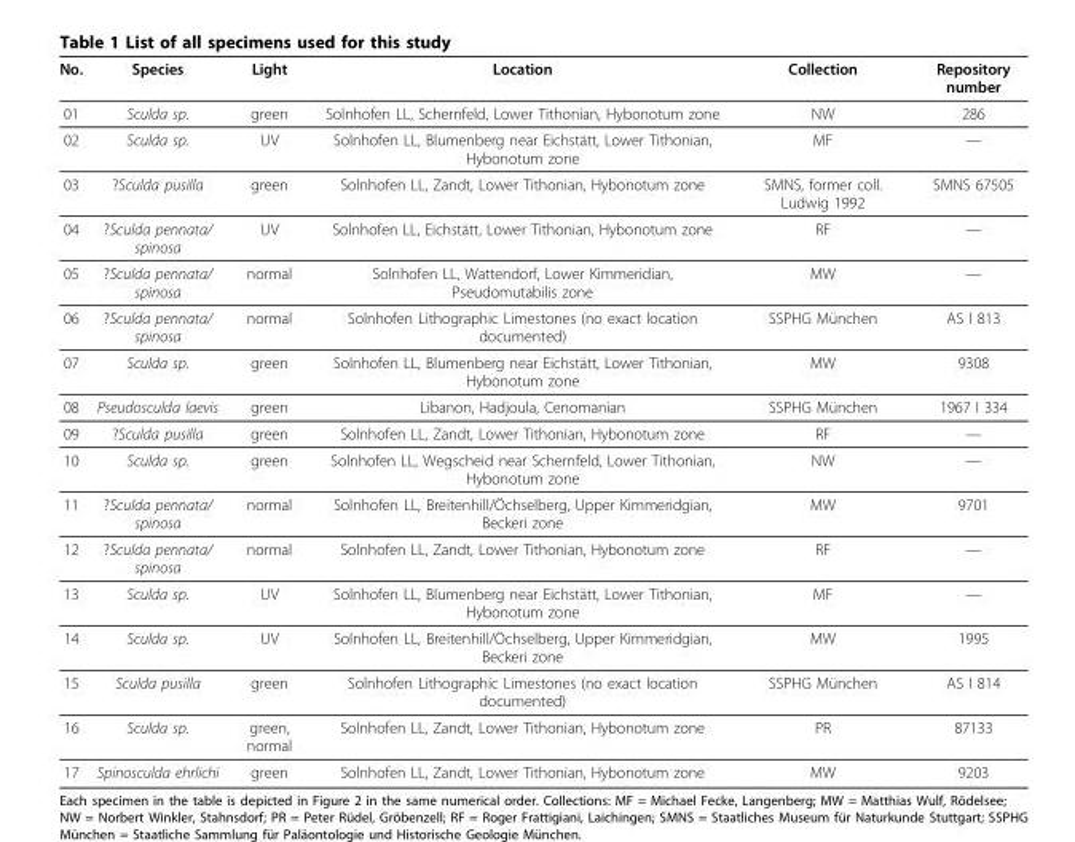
<table><thead><tr><td>No.</td><td>Species</td><td>Light</td><td>Location</td><td>Collection</td><td>Repository number</td></tr></thead><tbody><tr><td>01</td><td>Sculda sp.</td><td>green</td><td>Solnhofen LL, Schernfeld, Lower Tithonian, Hybonotum zone</td><td>NW</td><td>286</td></tr><tr><td>02</td><td>Sculda sp.</td><td>UV</td><td>Solnhofen LL, Blumenberg near Eichstätt, Lower Tithonian, Hybonotum zone</td><td>MF</td><td>—</td></tr><tr><td>03</td><td>?Sculda pusilla</td><td>green</td><td>Solnhofen LL, Zandt, Lower Tithonian, Hybonotum zone</td><td>SMNS, former coll. Ludwig 1992</td><td>SMNS 67505</td></tr><tr><td>04</td><td>?Sculda pennata/ spinosa</td><td>UV</td><td>Solnhofen LL, Eichstätt, Lower Tithonian, Hybonotum zone</td><td>RF</td><td>—</td></tr><tr><td>05</td><td>?Sculda pennata/ spinosa</td><td>normal</td><td>Solnhofen LL, Wattendorf, Lower Kimmeridian, Pseudomutabilis zone</td><td>MW</td><td>—</td></tr><tr><td>06</td><td>?Sculda pennata/ spinosa</td><td>normal</td><td>Solnhofen Lithographic Limestones (no exact location documented)</td><td>SSPHG München</td><td>AS I 813</td></tr><tr><td>07</td><td>Sculda sp.</td><td>green</td><td>Solnhofen LL, Blumenberg near Eichstätt, Lower Tithonian, Hybonotum zone</td><td>MW</td><td>9308</td></tr><tr><td>08</td><td>Pseudosculda laevis</td><td>green</td><td>Libanon, Hadjoula, Cenomanian</td><td>SSPHG München</td><td>1967 I 334</td></tr><tr><td>09</td><td>?Sculda pusilla</td><td>green</td><td>Solnhofen LL, Zandt, Lower Tithonian, Hybonotum zone</td><td>RF</td><td>—</td></tr><tr><td>10</td><td>Sculda sp.</td><td>green</td><td>Solnhofen LL, Wegscheid near Schernfeld, Lower Tithonian, Hybonotum zone</td><td>NW</td><td>—</td></tr><tr><td>11</td><td>?Sculda pennata/ spinosa</td><td>normal</td><td>Solnhofen LL, Breitenhill/Öchselberg, Upper Kimmeridgian, Beckeri zone</td><td>MW</td><td>9701</td></tr><tr><td>12</td><td>?Sculda pennata/ spinosa</td><td>normal</td><td>Solnhofen LL, Zandt, Lower Tithonian, Hybonotum zone</td><td>RF</td><td>—</td></tr><tr><td>13</td><td>Sculda sp.</td><td>UV</td><td>Solnhofen LL, Blumenberg near Eichstätt, Lower Tithonian, Hybonotum zone</td><td>MF</td><td>—</td></tr><tr><td>14</td><td>Sculda sp.</td><td>UV</td><td>Solnhofen LL, Breitenhill/Öchselberg, Upper Kimmeridgian, Beckeri zone</td><td>MW</td><td>1995</td></tr><tr><td>15</td><td>Sculda pusilla</td><td>green</td><td>Solnhofen Lithographic Limestones (no exact location documented)</td><td>SSPHG München</td><td>AS I 814</td></tr><tr><td>16</td><td>Sculda sp.</td><td>green, normal</td><td>Solnhofen LL, Zandt, Lower Tithonian, Hybonotum zone</td><td>PR</td><td>87133</td></tr><tr><td>17</td><td>Spinosculda ehrlichi</td><td>green</td><td>Solnhofen LL, Zandt, Lower Tithonian, Hybonotum zone</td><td>MW</td><td>9203</td></tr></tbody></table>